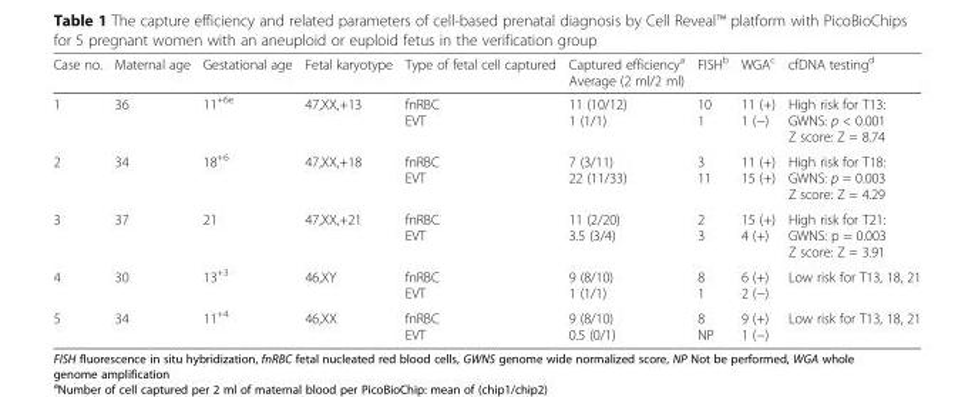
<table><thead><tr><td>Case no.</td><td>Maternal age</td><td>Gestational age</td><td>Fetal karyotype</td><td>Type of fetal cell captured</td><td>Captured efficiency<sup>a</sup> Average (2 ml/2 ml)</td><td>FISH<sup>b</sup></td><td>WGA<sup>c</sup></td><td>cfDNA testing<sup>d</sup></td></tr></thead><tbody><tr><td>1</td><td>36</td><td>11<sup>+6e</sup></td><td>47,XX,+13</td><td>fnRBC EVT</td><td>11 (10/12) 1 (1/1)</td><td>10 1</td><td>11 (+) 1 (−)</td><td>High risk for T13: GWNS: p &lt; 0.001 Z score: Z = 8.74</td></tr><tr><td>2</td><td>34</td><td>18<sup>+6</sup></td><td>47,XX,+18</td><td>fnRBC EVT</td><td>7 (3/11) 22 (11/33)</td><td>3 11</td><td>11 (+) 15 (+)</td><td>High risk for T18: GWNS: p = 0.003 Z score: Z = 4.29</td></tr><tr><td>3</td><td>37</td><td>21</td><td>47,XX,+21</td><td>fnRBC EVT</td><td>11 (2/20) 3.5 (3/4)</td><td>2 3</td><td>15 (+) 4 (+)</td><td>High risk for T21: GWNS: p = 0.003 Z score: Z = 3.91</td></tr><tr><td>4</td><td>30</td><td>13<sup>+3</sup></td><td>46,XY</td><td>fnRBC EVT</td><td>9 (8/10) 1 (1/1)</td><td>8 1</td><td>6 (+) 2 (−)</td><td>Low risk for T13, 18, 21</td></tr><tr><td>5</td><td>34</td><td>11<sup>+4</sup></td><td>46,XX</td><td>fnRBC EVT</td><td>9 (8/10) 0.5 (0/1)</td><td>8 NP</td><td>9 (+) 1 (−)</td><td>Low risk for T13, 18, 21</td></tr></tbody></table>